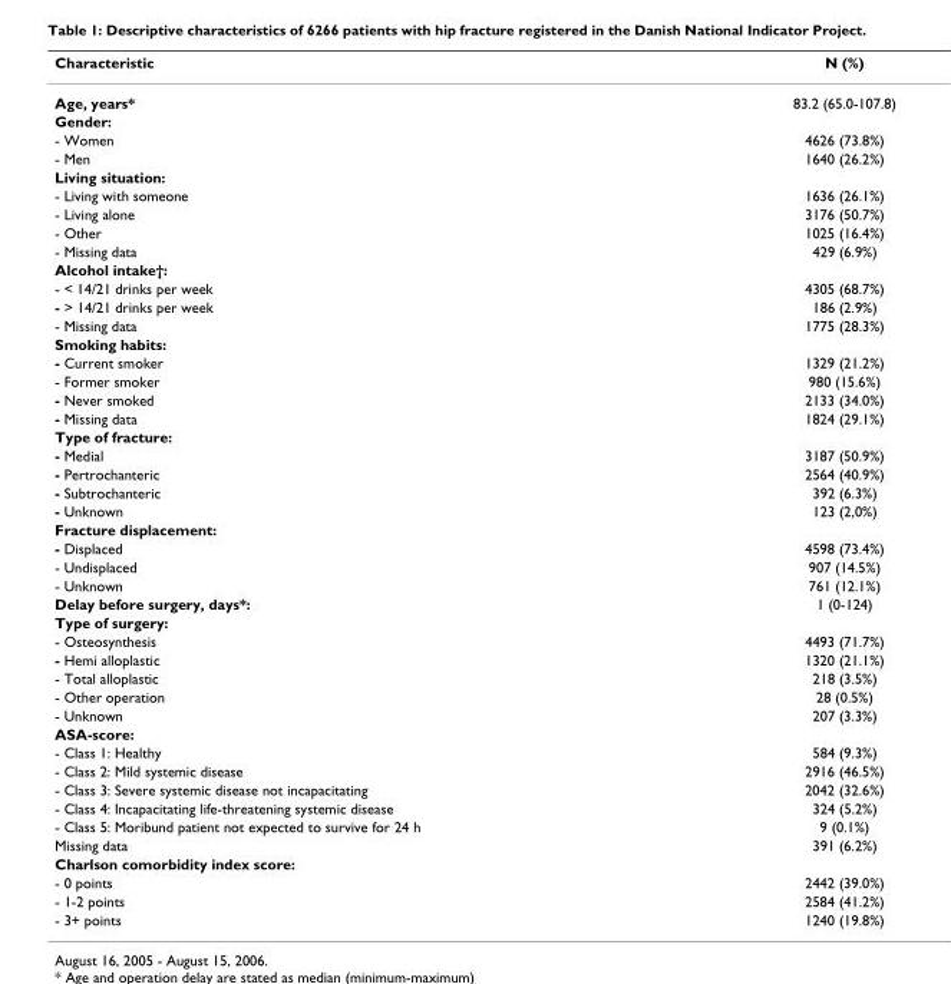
<table><thead><tr><td>Characteristic</td><td>N (%)</td></tr></thead><tbody><tr><td>Age, years*</td><td>83.2 (65.0-107.8)</td></tr><tr><td colspan="2">Gender:</td></tr><tr><td>- Women</td><td>4626 (73.8%)</td></tr><tr><td>- Men</td><td>1640 (26.2%)</td></tr><tr><td colspan="2">Living situation:</td></tr><tr><td>- Living with someone</td><td>1636 (26.1%)</td></tr><tr><td>- Living alone</td><td>3176 (50.7%)</td></tr><tr><td>- Other</td><td>1025 (16.4%)</td></tr><tr><td>- Missing data</td><td>429 (6.9%)</td></tr><tr><td colspan="2">Alcohol intake†:</td></tr><tr><td>- &lt; 14/21 drinks per week</td><td>4305 (68.7%)</td></tr><tr><td>- &gt; 14/21 drinks per week</td><td>186 (2.9%)</td></tr><tr><td>- Missing data</td><td>1775 (28.3%)</td></tr><tr><td colspan="2">Smoking habits:</td></tr><tr><td>- Current smoker</td><td>1329 (21.2%)</td></tr><tr><td>- Former smoker</td><td>980 (15.6%)</td></tr><tr><td>- Never smoked</td><td>2133 (34.0%)</td></tr><tr><td>- Missing data</td><td>1824 (29.1%)</td></tr><tr><td colspan="2">Type of fracture:</td></tr><tr><td>- Medial</td><td>3187 (50.9%)</td></tr><tr><td>- Pertrochanteric</td><td>2564 (40.9%)</td></tr><tr><td>- Subtrochanteric</td><td>392 (6.3%)</td></tr><tr><td>- Unknown</td><td>123 (2,0%)</td></tr><tr><td colspan="2">Fracture displacement:</td></tr><tr><td>- Displaced</td><td>4598 (73.4%)</td></tr><tr><td>- Undisplaced</td><td>907 (14.5%)</td></tr><tr><td>- Unknown</td><td>761 (12.1%)</td></tr><tr><td>Delay before surgery, days*:</td><td>1 (0-124)</td></tr><tr><td colspan="2">Type of surgery:</td></tr><tr><td>- Osteosynthesis</td><td>4493 (71.7%)</td></tr><tr><td>- Hemi alloplastic</td><td>1320 (21.1%)</td></tr><tr><td>- Total alloplastic</td><td>218 (3.5%)</td></tr><tr><td>- Other operation</td><td>28 (0.5%)</td></tr><tr><td>- Unknown</td><td>207 (3.3%)</td></tr><tr><td colspan="2">ASA-score:</td></tr><tr><td>- Class 1: Healthy</td><td>584 (9.3%)</td></tr><tr><td>- Class 2: Mild systemic disease</td><td>2916 (46.5%)</td></tr><tr><td>- Class 3: Severe systemic disease not incapacitating</td><td>2042 (32.6%)</td></tr><tr><td>- Class 4: Incapacitating life-threatening systemic disease</td><td>324 (5.2%)</td></tr><tr><td>- Class 5: Moribund patient not expected to survive for 24 h</td><td>9 (0.1%)</td></tr><tr><td>Missing data</td><td>391 (6.2%)</td></tr><tr><td colspan="2">Charlson comorbidity index score:</td></tr><tr><td>- 0 points</td><td>2442 (39.0%)</td></tr><tr><td>- 1-2 points</td><td>2584 (41.2%)</td></tr><tr><td>- 3+ points</td><td>1240 (19.8%)</td></tr></tbody></table>